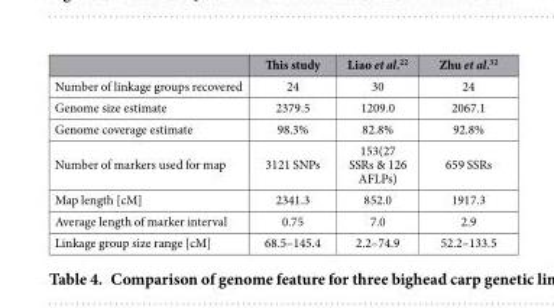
<table><thead><tr><td></td><td>This study</td><td>Liao et al.<sup>22</sup></td><td>Zhu et al.<sup>32</sup></td></tr></thead><tbody><tr><td>Number of linkage groups recovered</td><td>24</td><td>30</td><td>24</td></tr><tr><td>Genome size estimate</td><td>2379.5</td><td>1209.0</td><td>2067.1</td></tr><tr><td>Genome coverage estimate</td><td>98.3%</td><td>82.8%</td><td>92.8%</td></tr><tr><td>Number of markers used for map</td><td>3121 SNPs</td><td>153(27 SSRs &amp; 126 AFLPs)</td><td>659 SSRs</td></tr><tr><td>Map length [cM]</td><td>2341.3</td><td>852.0</td><td>1917.3</td></tr><tr><td>Average length of marker interval</td><td>0.75</td><td>7.0</td><td>2.9</td></tr><tr><td>Linkage group size range [cM]</td><td>68.5–145.4</td><td>2.2–74.9</td><td>52.2–133.5</td></tr></tbody></table>